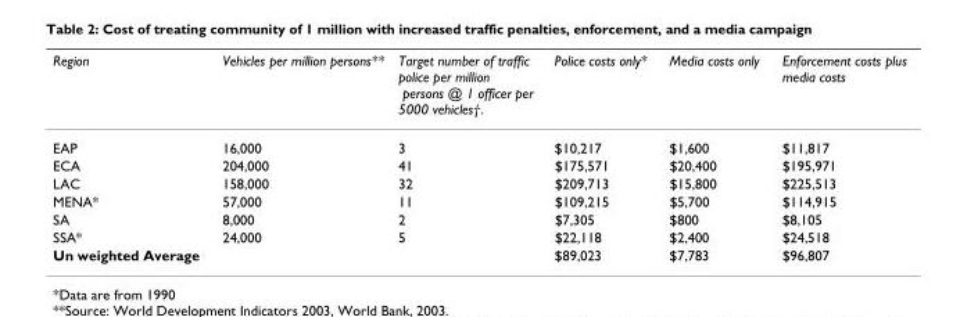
<table><thead><tr><td>Region</td><td>Vehicles per million persons**</td><td>Target number of traffic police per million persons @ 1 officer per 5000 vehicles†.</td><td>Police costs only*</td><td>Media costs only</td><td>Enforcement costs plus media costs</td></tr></thead><tbody><tr><td>EAP</td><td>16,000</td><td>3</td><td>$10,217</td><td>$1,600</td><td>$11,817</td></tr><tr><td>ECA</td><td>204,000</td><td>41</td><td>$175,571</td><td>$20,400</td><td>$195,971</td></tr><tr><td>LAC</td><td>158,000</td><td>32</td><td>$209,713</td><td>$15,800</td><td>$225,513</td></tr><tr><td>MENA*</td><td>57,000</td><td>11</td><td>$109,215</td><td>$5,700</td><td>$114,915</td></tr><tr><td>SA</td><td>8,000</td><td>2</td><td>$7,305</td><td>$800</td><td>$8,105</td></tr><tr><td>SSA*</td><td>24,000</td><td>5</td><td>$22,118</td><td>$2,400</td><td>$24,518</td></tr><tr><td>Un weighted Average</td><td></td><td></td><td>$89,023</td><td>$7,783</td><td>$96,807</td></tr></tbody></table>